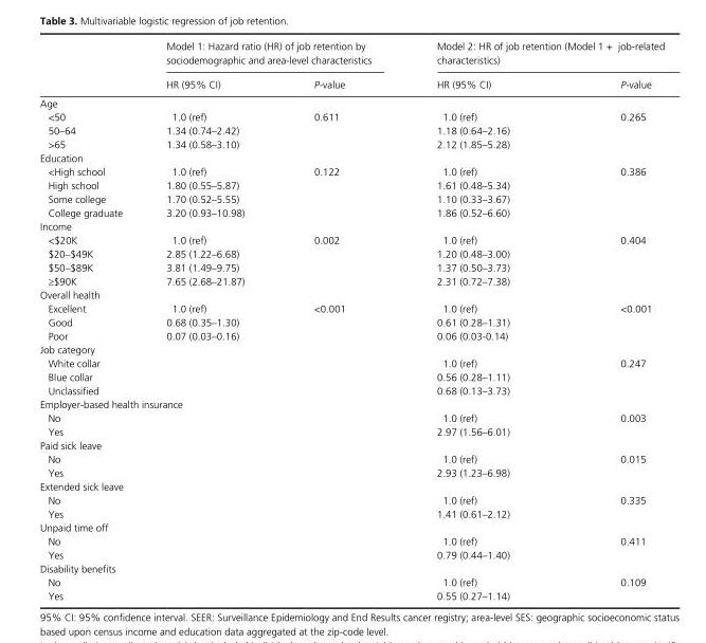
<table><thead><tr><td rowspan="2"></td><td colspan="2">Model 1: Hazard ratio (HR) of job retention by sociodemographic and area- level characteristics</td><td colspan="2">Model 2: HR of job retention (Model 1 + job- related characteristics)</td></tr><tr><td>HR (95% CI)</td><td>P- value</td><td>HR (95% CI)</td><td>P- value</td></tr></thead><tbody><tr><td colspan="5">Age</td></tr><tr><td>&lt;50</td><td>1.0 (ref)</td><td rowspan="3">0.611</td><td>1.0 (ref)</td><td rowspan="3">0.265</td></tr><tr><td>50–64</td><td>1.34 (0.74–2.42)</td><td>1.18 (0.64–2.16)</td></tr><tr><td>&gt;65</td><td>1.34 (0.58–3.10)</td><td>2.12 (1.85–5.28)</td></tr><tr><td colspan="5">Education</td></tr><tr><td>&lt;High school</td><td>1.0 (ref)</td><td rowspan="4">0.122</td><td>1.0 (ref)</td><td rowspan="4">0.386</td></tr><tr><td>High school</td><td>1.80 (0.55–5.87)</td><td>1.61 (0.48–5.34)</td></tr><tr><td>Some college</td><td>1.70 (0.52–5.55)</td><td>1.10 (0.33–3.67)</td></tr><tr><td>College graduate</td><td>3.20 (0.93–10.98)</td><td>1.86 (0.52–6.60)</td></tr><tr><td colspan="5">Income</td></tr><tr><td>&lt;$20K</td><td>1.0 (ref)</td><td rowspan="4">0.002</td><td>1.0 (ref)</td><td rowspan="4">0.404</td></tr><tr><td>$20–$49K</td><td>2.85 (1.22–6.68)</td><td>1.20 (0.48–3.00)</td></tr><tr><td>$50–$89K</td><td>3.81 (1.49–9.75)</td><td>1.37 (0.50–3.73)</td></tr><tr><td>≥$90K</td><td>7.65 (2.68–21.87)</td><td>2.31 (0.72–7.38)</td></tr><tr><td colspan="5">Overall health</td></tr><tr><td>Excellent</td><td>1.0 (ref)</td><td rowspan="3">&lt;0.001</td><td>1.0 (ref)</td><td rowspan="3">&lt;0.001</td></tr><tr><td>Good</td><td>0.68 (0.35–1.30)</td><td>0.61 (0.28–1.31)</td></tr><tr><td>Poor</td><td>0.07 (0.03–0.16)</td><td>0.06 (0.03- 0.14)</td></tr><tr><td colspan="5">Job category</td></tr><tr><td>White collar</td><td rowspan="3" colspan="2"></td><td>1.0 (ref)</td><td rowspan="3">0.247</td></tr><tr><td>Blue collar</td><td>0.56 (0.28–1.11)</td></tr><tr><td>Unclassified</td><td>0.68 (0.13–3.73)</td></tr><tr><td colspan="5">Employer- based health insurance</td></tr><tr><td>No</td><td rowspan="2" colspan="2"></td><td>1.0 (ref)</td><td rowspan="2">0.003</td></tr><tr><td>Yes</td><td>2.97 (1.56–6.01)</td></tr><tr><td colspan="5">Paid sick leave</td></tr><tr><td>No</td><td rowspan="2" colspan="2"></td><td>1.0 (ref)</td><td rowspan="2">0.015</td></tr><tr><td>Yes</td><td>2.93 (1.23–6.98)</td></tr><tr><td colspan="5">Extended sick leave</td></tr><tr><td>No</td><td rowspan="2" colspan="2"></td><td>1.0 (ref)</td><td rowspan="2">0.335</td></tr><tr><td>Yes</td><td>1.41 (0.61–2.12)</td></tr><tr><td colspan="5">Unpaid time off</td></tr><tr><td>No</td><td rowspan="2" colspan="2"></td><td>1.0 (ref)</td><td rowspan="2">0.411</td></tr><tr><td>Yes</td><td>0.79 (0.44–1.40)</td></tr><tr><td colspan="5">Disability benefits</td></tr><tr><td>No</td><td rowspan="2" colspan="2"></td><td>1.0 (ref)</td><td rowspan="2">0.109</td></tr><tr><td>Yes</td><td>0.55 (0.27–1.14)</td></tr></tbody></table>